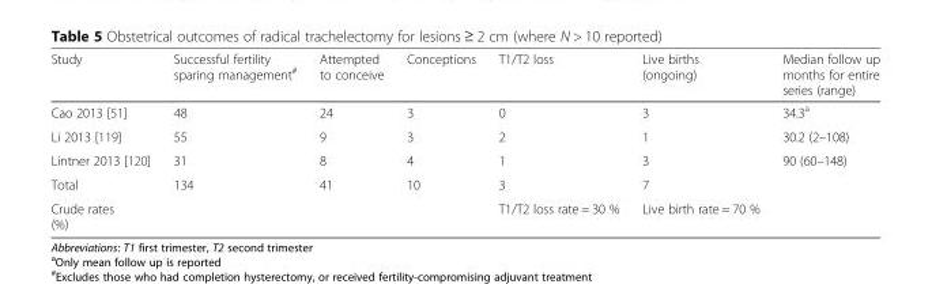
<table><thead><tr><td>Study</td><td>Successful fertility sparing management<sup>#</sup></td><td>Attempted to conceive</td><td>Conceptions</td><td>T1/T2 loss</td><td>Live births (ongoing)</td><td>Median follow up months for entire series (range)</td></tr></thead><tbody><tr><td>Cao 2013 [51]</td><td>48</td><td>24</td><td>3</td><td>0</td><td>3</td><td>34.3<sup>a</sup></td></tr><tr><td>Li 2013 [119]</td><td>55</td><td>9</td><td>3</td><td>2</td><td>1</td><td>30.2 (2–108)</td></tr><tr><td>Lintner 2013 [120]</td><td>31</td><td>8</td><td>4</td><td>1</td><td>3</td><td>90 (60–148)</td></tr><tr><td>Total</td><td>134</td><td>41</td><td>10</td><td>3</td><td>7</td><td></td></tr><tr><td>Crude rates (%)</td><td></td><td></td><td></td><td>T1/T2 loss rate = 30 %</td><td>Live birth rate = 70 %</td><td></td></tr></tbody></table>